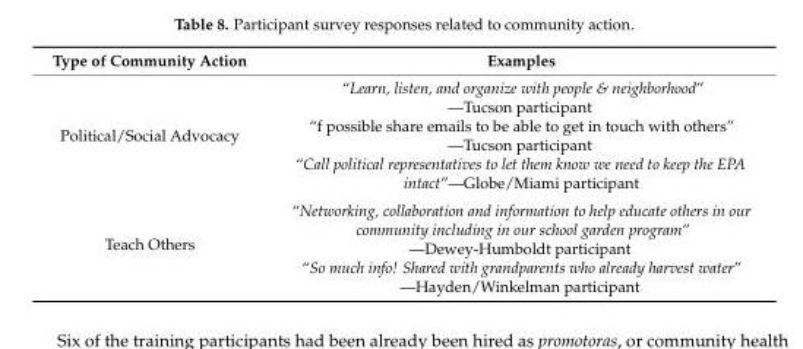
<table><thead><tr><td>Type of Community Action</td><td>Examples</td></tr></thead><tbody><tr><td>Political/Social Advocacy</td><td>“Learn, listen, and organize with people &amp; neighborhood” —Tucson participant “f possible share emails to be able to get in touch with others” —Tucson participant “Call political representatives to let them know we need to keep the EPA intact”—Globe/Miami participant</td></tr><tr><td>Teach Others</td><td>“Networking, collaboration and information to help educate others in our community including in our school garden program” —Dewey-Humboldt participant “So much info! Shared with grandparents who already harvest water” —Hayden/Winkelman participant</td></tr></tbody></table>